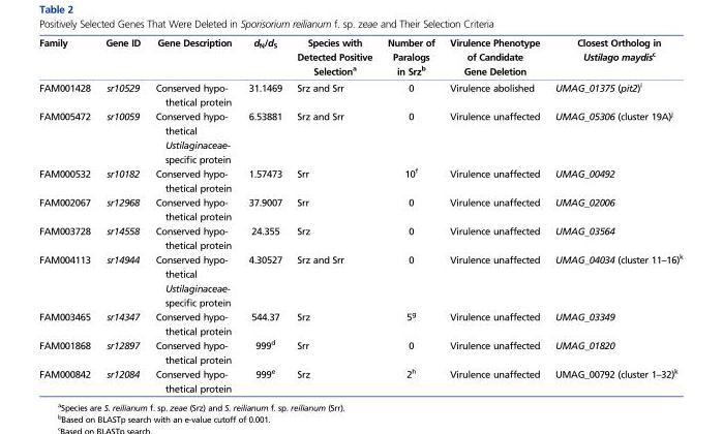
<table><thead><tr><td>Family</td><td>Gene ID</td><td>Gene Description</td><td>d<sub>N</sub>/d<sub>S</sub></td><td>Species with Detected Positive Selection<sup>a</sup></td><td>Number of Paralogs in Srz<sup>b</sup></td><td>Virulence Phenotype of Candidate Gene Deletion</td><td>Closest Ortholog in Ustilago maydis<sup>c</sup></td></tr></thead><tbody><tr><td>FAM001428</td><td>sr10529</td><td>Conserved hypo- thetical protein</td><td>31.1469</td><td>Srz and Srr</td><td>0</td><td>Virulence abolished</td><td>UMAG_01375 (pit2)<sup>i</sup></td></tr><tr><td>FAM005472</td><td>sr10059</td><td>Conserved hypo- thetical Ustilaginaceae- specific protein</td><td>6.53881</td><td>Srz and Srr</td><td>0</td><td>Virulence unaffected</td><td>UMAG_05306 (cluster 19A)<sup>j</sup></td></tr><tr><td>FAM000532</td><td>sr10182</td><td>Conserved hypo- thetical protein</td><td>1.57473</td><td>Srr</td><td>10<sup>f</sup></td><td>Virulence unaffected</td><td>UMAG_00492</td></tr><tr><td>FAM002067</td><td>sr12968</td><td>Conserved hypo- thetical protein</td><td>37.9007</td><td>Srr</td><td>0</td><td>Virulence unaffected</td><td>UMAG_02006</td></tr><tr><td>FAM003728</td><td>sr14558</td><td>Conserved hypo- thetical protein</td><td>24.355</td><td>Srz</td><td>0</td><td>Virulence unaffected</td><td>UMAG_03564</td></tr><tr><td>FAM004113</td><td>sr14944</td><td>Conserved hypo- thetical Ustilaginaceae- specific protein</td><td>4.30527</td><td>Srz and Srr</td><td>0</td><td>Virulence unaffected</td><td>UMAG_04034 (cluster 11–16)<sup>k</sup></td></tr><tr><td>FAM003465</td><td>sr14347</td><td>Conserved hypo- thetical protein</td><td>544.37</td><td>Srz</td><td>5<sup>g</sup></td><td>Virulence unaffected</td><td>UMAG_03349</td></tr><tr><td>FAM001868</td><td>sr12897</td><td>Conserved hypo- thetical protein</td><td>999<sup>d</sup></td><td>Srr</td><td>0</td><td>Virulence unaffected</td><td>UMAG_01820</td></tr><tr><td>FAM000842</td><td>sr12084</td><td>Conserved hypo- thetical protein</td><td>999<sup>e</sup></td><td>Srz</td><td>2<sup>h</sup></td><td>Virulence unaffected</td><td>UMAG_00792 (cluster 1–32)<sup>k</sup></td></tr></tbody></table>